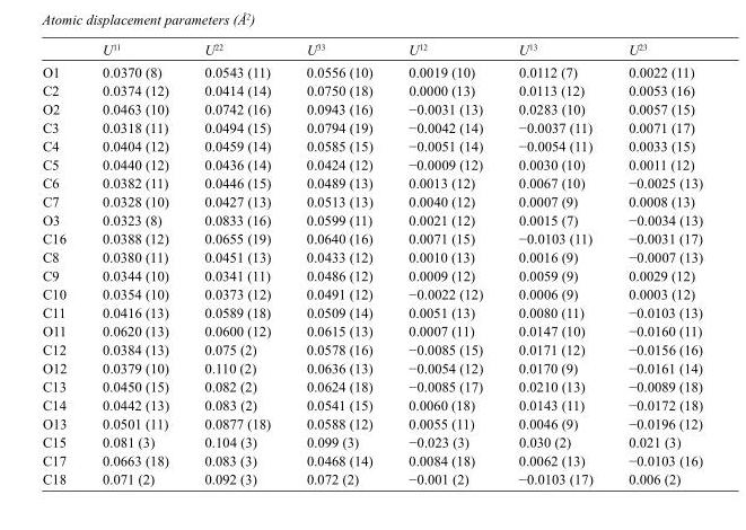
<table><thead><tr><td></td><td>U<sup>11</sup></td><td>U<sup>22</sup></td><td>U<sup>33</sup></td><td>U<sup>12</sup></td><td>U<sup>13</sup></td><td>U<sup>23</sup></td></tr></thead><tbody><tr><td>O1</td><td>0.0370 (8)</td><td>0.0543 (11)</td><td>0.0556 (10)</td><td>0.0019 (10)</td><td>0.0112 (7)</td><td>0.0022 (11)</td></tr><tr><td>C2</td><td>0.0374 (12)</td><td>0.0414 (14)</td><td>0.0750 (18)</td><td>0.0000 (13)</td><td>0.0113 (12)</td><td>0.0053 (16)</td></tr><tr><td>O2</td><td>0.0463 (10)</td><td>0.0742 (16)</td><td>0.0943 (16)</td><td>−0.0031 (13)</td><td>0.0283 (10)</td><td>0.0057 (15)</td></tr><tr><td>C3</td><td>0.0318 (11)</td><td>0.0494 (15)</td><td>0.0794 (19)</td><td>−0.0042 (14)</td><td>−0.0037 (11)</td><td>0.0071 (17)</td></tr><tr><td>C4</td><td>0.0404 (12)</td><td>0.0459 (14)</td><td>0.0585 (15)</td><td>−0.0051 (14)</td><td>−0.0054 (11)</td><td>0.0033 (15)</td></tr><tr><td>C5</td><td>0.0440 (12)</td><td>0.0436 (14)</td><td>0.0424 (12)</td><td>−0.0009 (12)</td><td>0.0030 (10)</td><td>0.0011 (12)</td></tr><tr><td>C6</td><td>0.0382 (11)</td><td>0.0446 (15)</td><td>0.0489 (13)</td><td>0.0013 (12)</td><td>0.0067 (10)</td><td>−0.0025 (13)</td></tr><tr><td>C7</td><td>0.0328 (10)</td><td>0.0427 (13)</td><td>0.0513 (13)</td><td>0.0040 (12)</td><td>0.0007 (9)</td><td>0.0008 (13)</td></tr><tr><td>O3</td><td>0.0323 (8)</td><td>0.0833 (16)</td><td>0.0599 (11)</td><td>0.0021 (12)</td><td>0.0015 (7)</td><td>−0.0034 (13)</td></tr><tr><td>C16</td><td>0.0388 (12)</td><td>0.0655 (19)</td><td>0.0640 (16)</td><td>0.0071 (15)</td><td>−0.0103 (11)</td><td>−0.0031 (17)</td></tr><tr><td>C8</td><td>0.0380 (11)</td><td>0.0451 (13)</td><td>0.0433 (12)</td><td>0.0010 (13)</td><td>0.0016 (9)</td><td>−0.0007 (13)</td></tr><tr><td>C9</td><td>0.0344 (10)</td><td>0.0341 (11)</td><td>0.0486 (12)</td><td>0.0009 (12)</td><td>0.0059 (9)</td><td>0.0029 (12)</td></tr><tr><td>C10</td><td>0.0354 (10)</td><td>0.0373 (12)</td><td>0.0491 (12)</td><td>−0.0022 (12)</td><td>0.0006 (9)</td><td>0.0003 (12)</td></tr><tr><td>C11</td><td>0.0416 (13)</td><td>0.0589 (18)</td><td>0.0509 (14)</td><td>0.0051 (13)</td><td>0.0080 (11)</td><td>−0.0103 (13)</td></tr><tr><td>O11</td><td>0.0620 (13)</td><td>0.0600 (12)</td><td>0.0615 (13)</td><td>0.0007 (11)</td><td>0.0147 (10)</td><td>−0.0160 (11)</td></tr><tr><td>C12</td><td>0.0384 (13)</td><td>0.075 (2)</td><td>0.0578 (16)</td><td>−0.0085 (15)</td><td>0.0171 (12)</td><td>−0.0156 (16)</td></tr><tr><td>O12</td><td>0.0379 (10)</td><td>0.110 (2)</td><td>0.0636 (13)</td><td>−0.0054 (12)</td><td>0.0170 (9)</td><td>−0.0161 (14)</td></tr><tr><td>C13</td><td>0.0450 (15)</td><td>0.082 (2)</td><td>0.0624 (18)</td><td>−0.0085 (17)</td><td>0.0210 (13)</td><td>−0.0089 (18)</td></tr><tr><td>C14</td><td>0.0442 (13)</td><td>0.083 (2)</td><td>0.0541 (15)</td><td>0.0060 (18)</td><td>0.0143 (11)</td><td>−0.0172 (18)</td></tr><tr><td>O13</td><td>0.0501 (11)</td><td>0.0877 (18)</td><td>0.0588 (12)</td><td>0.0055 (11)</td><td>0.0046 (9)</td><td>−0.0196 (12)</td></tr><tr><td>C15</td><td>0.081 (3)</td><td>0.104 (3)</td><td>0.099 (3)</td><td>−0.023 (3)</td><td>0.030 (2)</td><td>0.021 (3)</td></tr><tr><td>C17</td><td>0.0663 (18)</td><td>0.083 (3)</td><td>0.0468 (14)</td><td>0.0084 (18)</td><td>0.0062 (13)</td><td>−0.0103 (16)</td></tr><tr><td>C18</td><td>0.071 (2)</td><td>0.092 (3)</td><td>0.072 (2)</td><td>−0.001 (2)</td><td>−0.0103 (17)</td><td>0.006 (2)</td></tr></tbody></table>